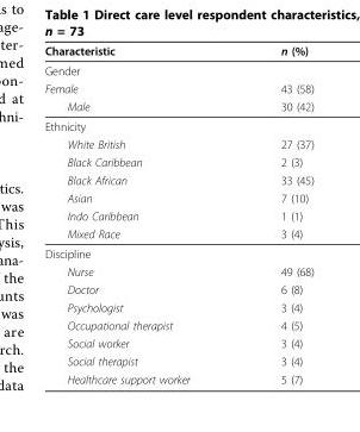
<table><thead><tr><td>Characteristic</td><td>n (%)</td></tr></thead><tbody><tr><td colspan="2">Gender</td></tr><tr><td>Female</td><td>43 (58)</td></tr><tr><td>Male</td><td>30 (42)</td></tr><tr><td colspan="2">Ethnicity</td></tr><tr><td>White British</td><td>27 (37)</td></tr><tr><td>Black Caribbean</td><td>2 (3)</td></tr><tr><td>Black African</td><td>33 (45)</td></tr><tr><td>Asian</td><td>7 (10)</td></tr><tr><td>Indo Caribbean</td><td>1 (1)</td></tr><tr><td>Mixed Race</td><td>3 (4)</td></tr><tr><td colspan="2">Discipline</td></tr><tr><td>Nurse</td><td>49 (68)</td></tr><tr><td>Doctor</td><td>6 (8)</td></tr><tr><td>Psychologist</td><td>3 (4)</td></tr><tr><td>Occupational therapist</td><td>4 (5)</td></tr><tr><td>Social worker</td><td>3 (4)</td></tr><tr><td>Social therapist</td><td>3 (4)</td></tr><tr><td>Healthcare support worker</td><td>5 (7)</td></tr></tbody></table>